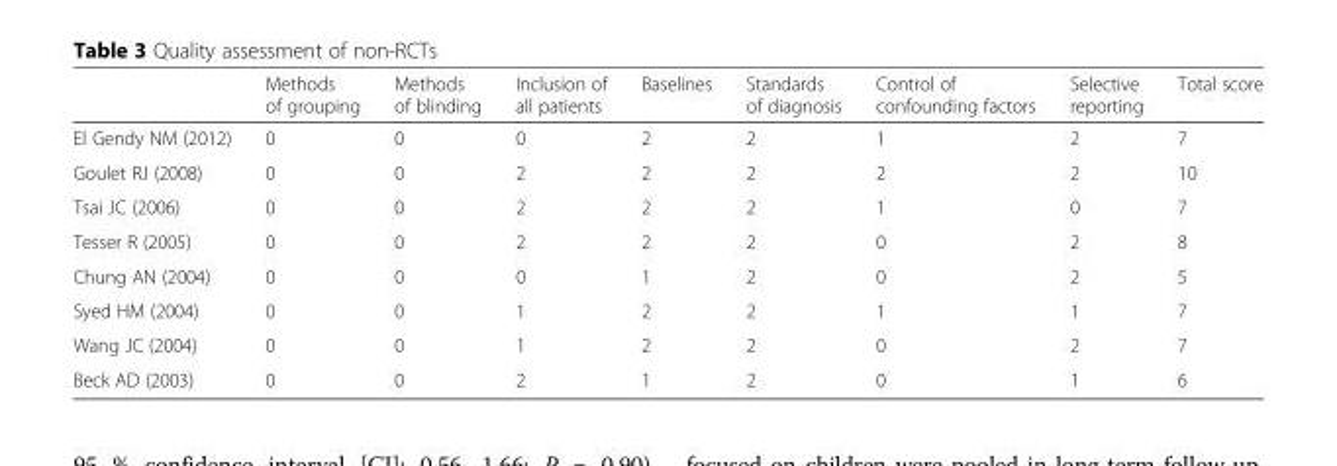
<table><thead><tr><td></td><td>Methods of grouping</td><td>Methods of blinding</td><td>Inclusion of all patients</td><td>Baselines</td><td>Standards of diagnosis</td><td>Control of confounding factors</td><td>Selective reporting</td><td>Total score</td></tr></thead><tbody><tr><td>El Gendy NM (2012)</td><td>0</td><td>0</td><td>0</td><td>2</td><td>2</td><td>1</td><td>2</td><td>7</td></tr><tr><td>Goulet RJ (2008)</td><td>0</td><td>0</td><td>2</td><td>2</td><td>2</td><td>2</td><td>2</td><td>10</td></tr><tr><td>Tsai JC (2006)</td><td>0</td><td>0</td><td>2</td><td>2</td><td>2</td><td>1</td><td>0</td><td>7</td></tr><tr><td>Tesser R (2005)</td><td>0</td><td>0</td><td>2</td><td>2</td><td>2</td><td>0</td><td>2</td><td>8</td></tr><tr><td>Chung AN (2004)</td><td>0</td><td>0</td><td>0</td><td>1</td><td>2</td><td>0</td><td>2</td><td>5</td></tr><tr><td>Syed HM (2004)</td><td>0</td><td>0</td><td>1</td><td>2</td><td>2</td><td>1</td><td>1</td><td>7</td></tr><tr><td>Wang JC (2004)</td><td>0</td><td>0</td><td>1</td><td>2</td><td>2</td><td>0</td><td>2</td><td>7</td></tr><tr><td>Beck AD (2003)</td><td>0</td><td>0</td><td>2</td><td>1</td><td>2</td><td>0</td><td>1</td><td>6</td></tr></tbody></table>